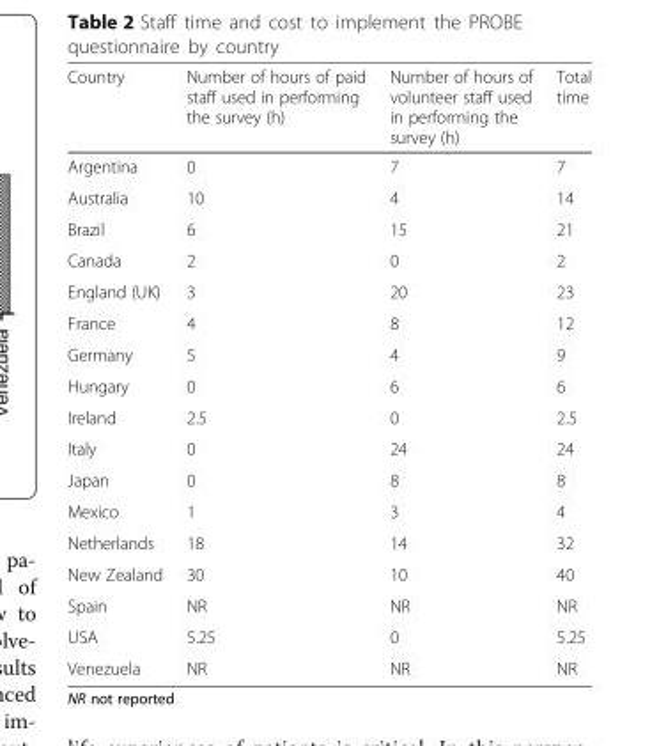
<table><thead><tr><td>Country</td><td>Number of hours of paid staff used in performing the survey (h)</td><td>Number of hours of volunteer staff used in performing the survey (h)</td><td>Total time</td></tr></thead><tbody><tr><td>Argentina</td><td>0</td><td>7</td><td>7</td></tr><tr><td>Australia</td><td>10</td><td>4</td><td>14</td></tr><tr><td>Brazil</td><td>6</td><td>15</td><td>21</td></tr><tr><td>Canada</td><td>2</td><td>0</td><td>2</td></tr><tr><td>England (UK)</td><td>3</td><td>20</td><td>23</td></tr><tr><td>France</td><td>4</td><td>8</td><td>12</td></tr><tr><td>Germany</td><td>5</td><td>4</td><td>9</td></tr><tr><td>Hungary</td><td>0</td><td>6</td><td>6</td></tr><tr><td>Ireland</td><td>2.5</td><td>0</td><td>2.5</td></tr><tr><td>Italy</td><td>0</td><td>24</td><td>24</td></tr><tr><td>Japan</td><td>0</td><td>8</td><td>8</td></tr><tr><td>Mexico</td><td>1</td><td>3</td><td>4</td></tr><tr><td>Netherlands</td><td>18</td><td>14</td><td>32</td></tr><tr><td>New Zealand</td><td>30</td><td>10</td><td>40</td></tr><tr><td>Spain</td><td>NR</td><td>NR</td><td>NR</td></tr><tr><td>USA</td><td>5.25</td><td>0</td><td>5.25</td></tr><tr><td>Venezuela</td><td>NR</td><td>NR</td><td>NR</td></tr></tbody></table>